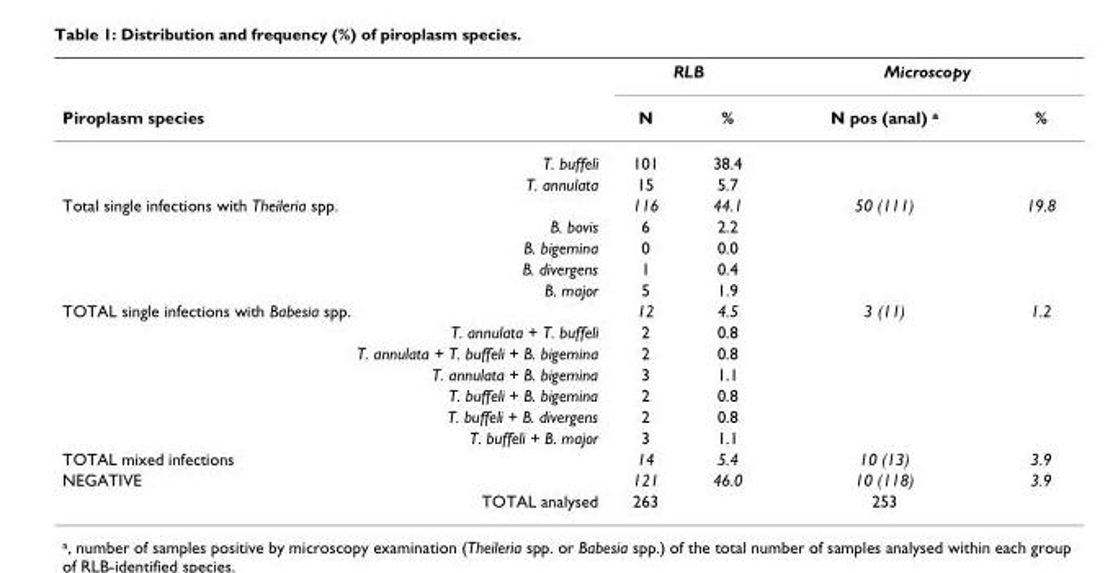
<table><thead><tr><td rowspan="2">Piroplasm species</td><td colspan="2">RLB</td><td colspan="2">Microscopy</td></tr><tr><td>N</td><td>%</td><td>N pos (anal) a</td><td>%</td></tr></thead><tbody><tr><td>T. buffeli</td><td>101</td><td>38.4</td><td></td><td></td></tr><tr><td>T. annulata</td><td>15</td><td>5.7</td><td></td><td></td></tr><tr><td>Total single infections with Theileria spp.</td><td>116</td><td>44.1</td><td>50 (111)</td><td>19.8</td></tr><tr><td>B. bovis</td><td>6</td><td>2.2</td><td></td><td></td></tr><tr><td>B. bigemina</td><td>0</td><td>0.0</td><td></td><td></td></tr><tr><td>B. divergens</td><td>1</td><td>0.4</td><td></td><td></td></tr><tr><td>B. major</td><td>5</td><td>1.9</td><td></td><td></td></tr><tr><td>TOTAL single infections with Babesia spp.</td><td>12</td><td>4.5</td><td>3 (11)</td><td>1.2</td></tr><tr><td>T. annulata + T. buffeli</td><td>2</td><td>0.8</td><td></td><td></td></tr><tr><td>T. annulata + T. buffeli + B. bigemina</td><td>2</td><td>0.8</td><td></td><td></td></tr><tr><td>T. annulata + B. bigemina</td><td>3</td><td>1.1</td><td></td><td></td></tr><tr><td>T. buffeli + B. bigemina</td><td>2</td><td>0.8</td><td></td><td></td></tr><tr><td>T. buffeli + B. divergens</td><td>2</td><td>0.8</td><td></td><td></td></tr><tr><td>T. buffeli + B. major</td><td>3</td><td>1.1</td><td></td><td></td></tr><tr><td>TOTAL mixed infections</td><td>14</td><td>5.4</td><td>10 (13)</td><td>3.9</td></tr><tr><td>NEGATIVE</td><td>121</td><td>46.0</td><td>10 (118)</td><td>3.9</td></tr><tr><td>TOTAL analysed</td><td>263</td><td></td><td>253</td><td></td></tr></tbody></table>